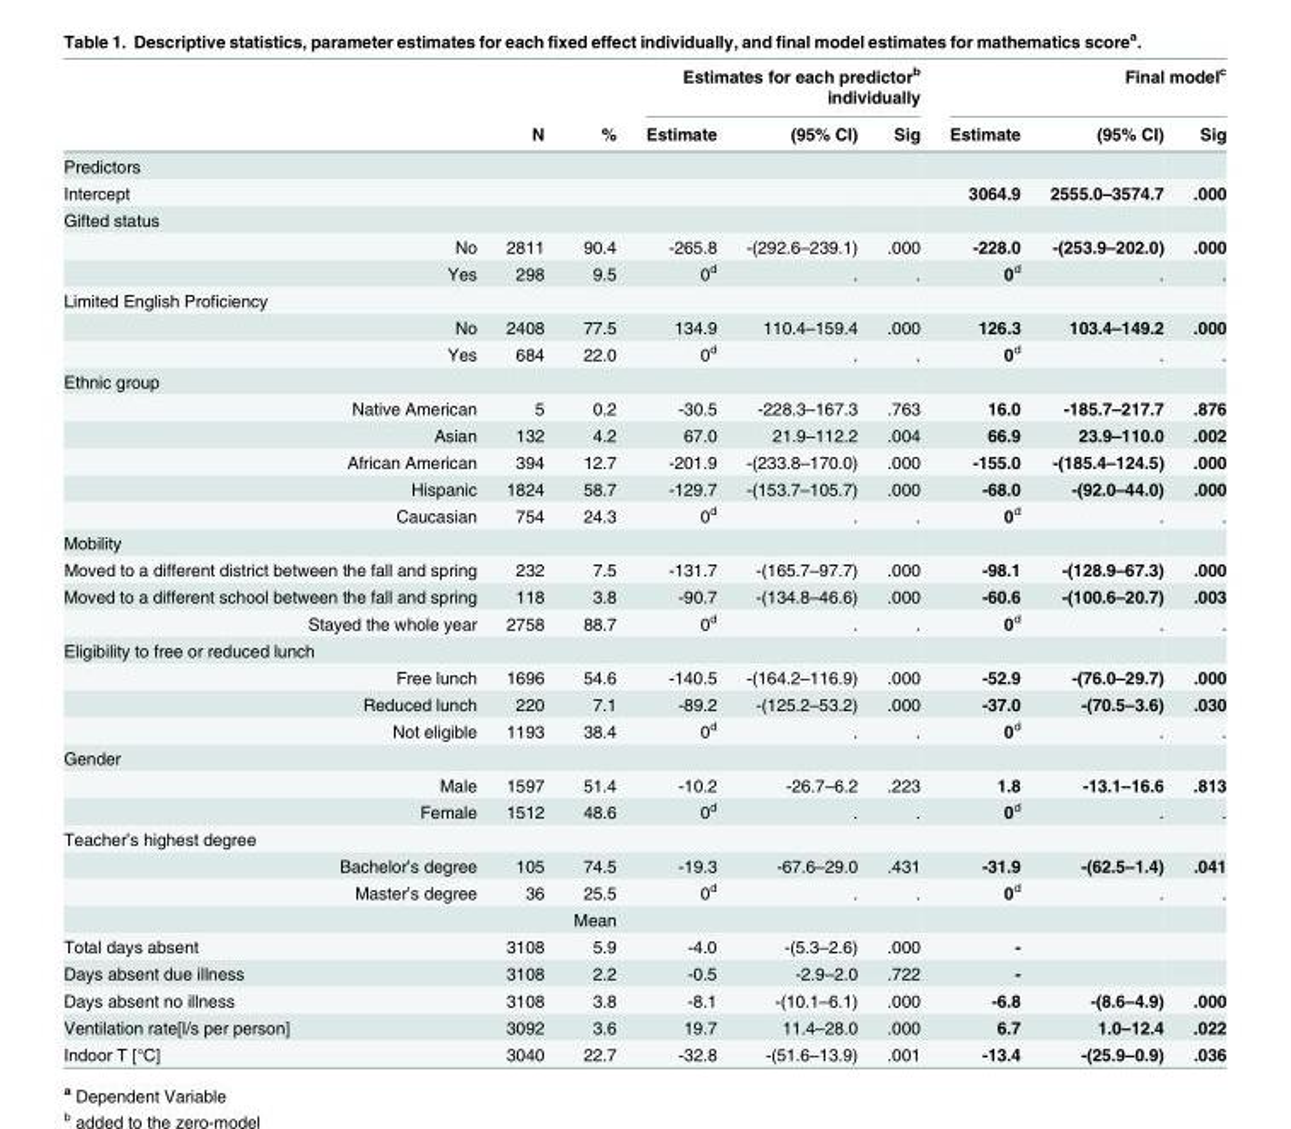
<table><thead><tr><td rowspan="2"></td><td rowspan="2">N</td><td rowspan="2">%</td><td colspan="3">Estimates for each predictor<sup>b</sup> individually</td><td colspan="3">Final model<sup>c</sup></td></tr><tr><td>Estimate</td><td>(95% CI)</td><td>Sig</td><td>Estimate</td><td>(95% CI)</td><td>Sig</td></tr></thead><tbody><tr><td colspan="9">Predictors</td></tr><tr><td>Intercept</td><td></td><td></td><td></td><td></td><td></td><td>3064.9</td><td>2555.0–3574.7</td><td>.000</td></tr><tr><td colspan="9">Gifted status</td></tr><tr><td>No</td><td>2811</td><td>90.4</td><td>-265.8</td><td>-(292.6–239.1)</td><td>.000</td><td>-228.0</td><td>-(253.9–202.0)</td><td>.000</td></tr><tr><td>Yes</td><td>298</td><td>9.5</td><td>0<sup>d</sup></td><td>.</td><td>.</td><td>0<sup>d</sup></td><td>.</td><td>.</td></tr><tr><td colspan="9">Limited English Proficiency</td></tr><tr><td>No</td><td>2408</td><td>77.5</td><td>134.9</td><td>110.4–159.4</td><td>.000</td><td>126.3</td><td>103.4–149.2</td><td>.000</td></tr><tr><td>Yes</td><td>684</td><td>22.0</td><td>0<sup>d</sup></td><td>.</td><td>.</td><td>0<sup>d</sup></td><td>.</td><td>.</td></tr><tr><td colspan="9">Ethnic group</td></tr><tr><td>Native American</td><td>5</td><td>0.2</td><td>-30.5</td><td>-228.3–167.3</td><td>.763</td><td>16.0</td><td>-185.7–217.7</td><td>.876</td></tr><tr><td>Asian</td><td>132</td><td>4.2</td><td>67.0</td><td>21.9–112.2</td><td>.004</td><td>66.9</td><td>23.9–110.0</td><td>.002</td></tr><tr><td>African American</td><td>394</td><td>12.7</td><td>-201.9</td><td>-(233.8–170.0)</td><td>.000</td><td>-155.0</td><td>-(185.4–124.5)</td><td>.000</td></tr><tr><td>Hispanic</td><td>1824</td><td>58.7</td><td>-129.7</td><td>-(153.7–105.7)</td><td>.000</td><td>-68.0</td><td>-(92.0–44.0)</td><td>.000</td></tr><tr><td>Caucasian</td><td>754</td><td>24.3</td><td>0<sup>d</sup></td><td>.</td><td>.</td><td>0<sup>d</sup></td><td>.</td><td>.</td></tr><tr><td colspan="9">Mobility</td></tr><tr><td>Moved to a different district between the fall and spring</td><td>232</td><td>7.5</td><td>-131.7</td><td>-(165.7–97.7)</td><td>.000</td><td>-98.1</td><td>-(128.9–67.3)</td><td>.000</td></tr><tr><td>Moved to a different school between the fall and spring</td><td>118</td><td>3.8</td><td>-90.7</td><td>-(134.8–46.6)</td><td>.000</td><td>-60.6</td><td>-(100.6–20.7)</td><td>.003</td></tr><tr><td>Stayed the whole year</td><td>2758</td><td>88.7</td><td>0<sup>d</sup></td><td>.</td><td>.</td><td>0<sup>d</sup></td><td>.</td><td>.</td></tr><tr><td colspan="9">Eligibility to free or reduced lunch</td></tr><tr><td>Free lunch</td><td>1696</td><td>54.6</td><td>-140.5</td><td>-(164.2–116.9)</td><td>.000</td><td>-52.9</td><td>-(76.0–29.7)</td><td>.000</td></tr><tr><td>Reduced lunch</td><td>220</td><td>7.1</td><td>-89.2</td><td>-(125.2–53.2)</td><td>.000</td><td>-37.0</td><td>-(70.5–3.6)</td><td>.030</td></tr><tr><td>Not eligible</td><td>1193</td><td>38.4</td><td>0<sup>d</sup></td><td>.</td><td>.</td><td>0<sup>d</sup></td><td>.</td><td>.</td></tr><tr><td colspan="9">Gender</td></tr><tr><td>Male</td><td>1597</td><td>51.4</td><td>-10.2</td><td>-26.7–6.2</td><td>.223</td><td>1.8</td><td>-13.1–16.6</td><td>.813</td></tr><tr><td>Female</td><td>1512</td><td>48.6</td><td>0<sup>d</sup></td><td>.</td><td>.</td><td>0<sup>d</sup></td><td>.</td><td>.</td></tr><tr><td colspan="9">Teacher’s highest degree</td></tr><tr><td>Bachelor’s degree</td><td>105</td><td>74.5</td><td>-19.3</td><td>-67.6–29.0</td><td>.431</td><td>-31.9</td><td>-(62.5–1.4)</td><td>.041</td></tr><tr><td rowspan="2">Master’s degree</td><td>36</td><td>25.5</td><td>0<sup>d</sup></td><td>.</td><td>.</td><td>0<sup>d</sup></td><td>.</td><td>.</td></tr><tr><td></td><td>Mean</td><td></td><td></td><td></td><td></td><td></td><td></td></tr><tr><td>Total days absent</td><td>3108</td><td>5.9</td><td>-4.0</td><td>-(5.3–2.6)</td><td>.000</td><td>-</td><td></td><td></td></tr><tr><td>Days absent due illness</td><td>3108</td><td>2.2</td><td>-0.5</td><td>-2.9–2.0</td><td>.722</td><td>-</td><td></td><td></td></tr><tr><td>Days absent no illness</td><td>3108</td><td>3.8</td><td>-8.1</td><td>-(10.1–6.1)</td><td>.000</td><td>-6.8</td><td>-(8.6–4.9)</td><td>.000</td></tr><tr><td>Ventilation rate[l/s per person]</td><td>3092</td><td>3.6</td><td>19.7</td><td>11.4–28.0</td><td>.000</td><td>6.7</td><td>1.0–12.4</td><td>.022</td></tr><tr><td>Indoor T [°C]</td><td>3040</td><td>22.7</td><td>-32.8</td><td>-(51.6–13.9)</td><td>.001</td><td>-13.4</td><td>-(25.9–0.9)</td><td>.036</td></tr></tbody></table>